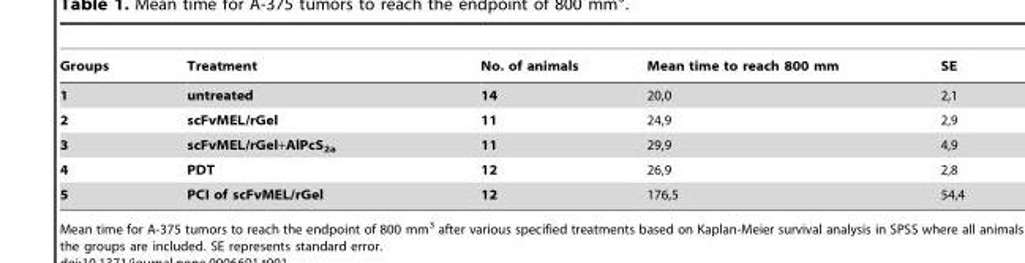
<table><thead><tr><td>Groups</td><td>Treatment</td><td>No. of animals</td><td>Mean time to reach 800 mm</td><td>SE</td></tr></thead><tbody><tr><td>1</td><td>untreated</td><td>14</td><td>20,0</td><td>2,1</td></tr><tr><td>2</td><td>scFvMEL/rGel</td><td>11</td><td>24,9</td><td>2,9</td></tr><tr><td>3</td><td>scFvMEL/rGel+AlPcS<sub>2a</sub></td><td>11</td><td>29,9</td><td>4,9</td></tr><tr><td>4</td><td>PDT</td><td>12</td><td>26,9</td><td>2,8</td></tr><tr><td>5</td><td>PCI of scFvMEL/rGel</td><td>12</td><td>176,5</td><td>54,4</td></tr></tbody></table>